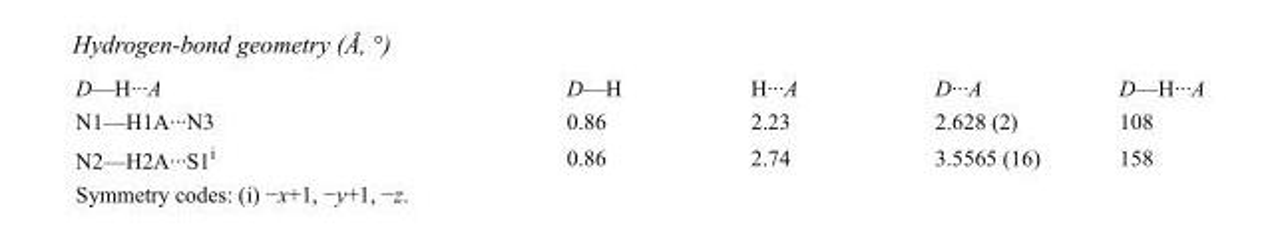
<table><tbody><tr><td>D—H···A</td><td>D—H</td><td>H···A</td><td>D···A</td><td>D—H···A</td></tr><tr><td>N1—H1A···N3</td><td>0.86</td><td>2.23</td><td>2.628 (2)</td><td>108</td></tr><tr><td>N2—H2A···S1<sup>i</sup></td><td>0.86</td><td>2.74</td><td>3.5565 (16)</td><td>158</td></tr></tbody></table>